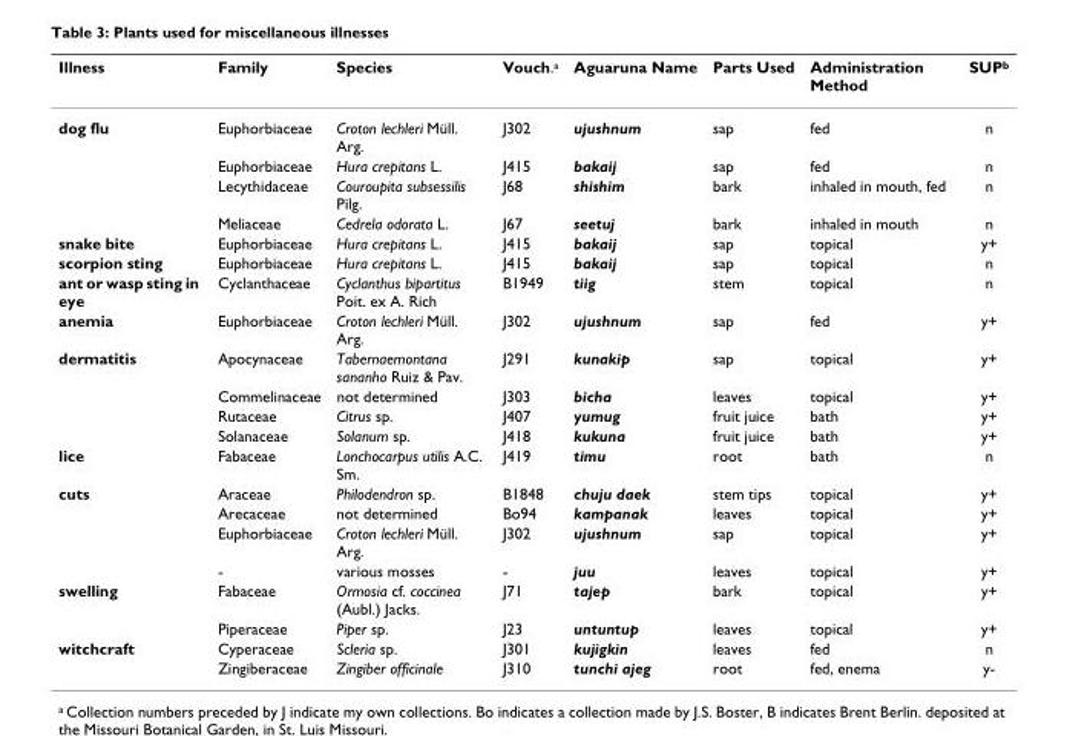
<table><thead><tr><td>Illness</td><td>Family</td><td>Species</td><td>Vouch.<sup>a</sup></td><td>Aguaruna Name</td><td>Parts Used</td><td>Administration Method</td><td>SUP<sup>b</sup></td></tr></thead><tbody><tr><td rowspan="4">dog flu</td><td>Euphorbiaceae</td><td>Croton lechleri Müll. Arg.</td><td>J302</td><td>ujushnum</td><td>sap</td><td>fed</td><td>n</td></tr><tr><td>Euphorbiaceae</td><td>Hura crepitans L.</td><td>J415</td><td>bakaij</td><td>sap</td><td>fed</td><td>n</td></tr><tr><td>Lecythidaceae</td><td>Couroupita subsessilis Pilg.</td><td>J68</td><td>shishim</td><td>bark</td><td>inhaled in mouth, fed</td><td>n</td></tr><tr><td>Meliaceae</td><td>Cedrela odorata L.</td><td>J67</td><td>seetuj</td><td>bark</td><td>inhaled in mouth</td><td>n</td></tr><tr><td>snake bite</td><td>Euphorbiaceae</td><td>Hura crepitans L.</td><td>J415</td><td>bakaij</td><td>sap</td><td>topical</td><td>y+</td></tr><tr><td>scorpion sting</td><td>Euphorbiaceae</td><td>Hura crepitans L.</td><td>J415</td><td>bakaij</td><td>sap</td><td>topical</td><td>n</td></tr><tr><td>ant or wasp sting in eye</td><td>Cyclanthaceae</td><td>Cyclanthus bipartitus Poit. ex A. Rich</td><td>B1949</td><td>tiig</td><td>stem</td><td>topical</td><td>n</td></tr><tr><td>anemia</td><td>Euphorbiaceae</td><td>Croton lechleri Müll. Arg.</td><td>J302</td><td>ujushnum</td><td>sap</td><td>fed</td><td>y+</td></tr><tr><td rowspan="4">dermatitis</td><td>Apocynaceae</td><td>Tabernaemontana sananho Ruiz &amp; Pav.</td><td>J291</td><td>kunakip</td><td>sap</td><td>topical</td><td>y+</td></tr><tr><td>Commelinaceae</td><td>not determined</td><td>J303</td><td>bicha</td><td>leaves</td><td>topical</td><td>y+</td></tr><tr><td>Rutaceae</td><td>Citrus sp.</td><td>J407</td><td>yumug</td><td>fruit juice</td><td>bath</td><td>y+</td></tr><tr><td>Solanaceae</td><td>Solanum sp.</td><td>J418</td><td>kukuna</td><td>fruit juice</td><td>bath</td><td>y+</td></tr><tr><td>lice</td><td>Fabaceae</td><td>Lonchocarpus utilis A.C. Sm.</td><td>J419</td><td>timu</td><td>root</td><td>bath</td><td>n</td></tr><tr><td rowspan="4">cuts</td><td>Araceae</td><td>Philodendron sp.</td><td>B1848</td><td>chuju daek</td><td>stem tips</td><td>topical</td><td>y+</td></tr><tr><td>Arecaceae</td><td>not determined</td><td>Bo94</td><td>kampanak</td><td>leaves</td><td>topical</td><td>y+</td></tr><tr><td>Euphorbiaceae</td><td>Croton lechleri Müll. Arg.</td><td>J302</td><td>ujushnum</td><td>sap</td><td>topical</td><td>y+</td></tr><tr><td>-</td><td>various mosses</td><td>-</td><td>juu</td><td>leaves</td><td>topical</td><td>y+</td></tr><tr><td rowspan="2">swelling</td><td>Fabaceae</td><td>Ormosia cf. coccinea (Aubl.) Jacks.</td><td>J71</td><td>tajep</td><td>bark</td><td>topical</td><td>y+</td></tr><tr><td>Piperaceae</td><td>Piper sp.</td><td>J23</td><td>untuntup</td><td>leaves</td><td>topical</td><td>y+</td></tr><tr><td rowspan="2">witchcraft</td><td>Cyperaceae</td><td>Scleria sp.</td><td>J301</td><td>kujigkin</td><td>leaves</td><td>fed</td><td>n</td></tr><tr><td>Zingiberaceae</td><td>Zingiber officinale</td><td>J310</td><td>tunchi ajeg</td><td>root</td><td>fed, enema</td><td>y-</td></tr></tbody></table>